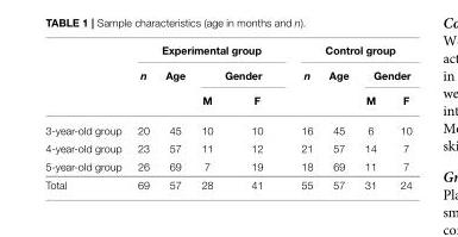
<table><thead><tr><td rowspan="3"></td><td colspan="4">Experimental group</td><td colspan="4">Control group</td></tr><tr><td rowspan="2">n</td><td rowspan="2">Age</td><td colspan="2">Gender</td><td rowspan="2">n</td><td rowspan="2">Age</td><td colspan="2">Gender</td></tr><tr><td>M</td><td>F</td><td>M</td><td>F</td></tr></thead><tbody><tr><td>3-year-old group</td><td>20</td><td>45</td><td>10</td><td>10</td><td>16</td><td>45</td><td>6</td><td>10</td></tr><tr><td>4-year-old group</td><td>23</td><td>57</td><td>11</td><td>12</td><td>21</td><td>57</td><td>14</td><td>7</td></tr><tr><td>5-year-old group</td><td>26</td><td>69</td><td>7</td><td>19</td><td>18</td><td>69</td><td>11</td><td>7</td></tr><tr><td>Total</td><td>69</td><td>57</td><td>28</td><td>41</td><td>55</td><td>57</td><td>31</td><td>24</td></tr></tbody></table>